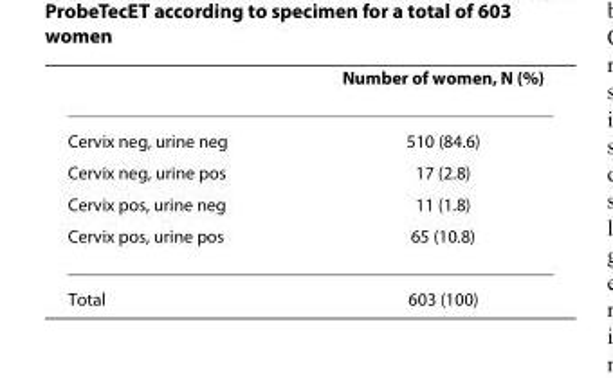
<table><thead><tr><td></td><td>Number of women, N (%)</td></tr></thead><tbody><tr><td>Cervix neg, urine neg</td><td>510 (84.6)</td></tr><tr><td>Cervix neg, urine pos</td><td>17 (2.8)</td></tr><tr><td>Cervix pos, urine neg</td><td>11 (1.8)</td></tr><tr><td>Cervix pos, urine pos</td><td>65 (10.8)</td></tr><tr><td>Total</td><td>603 (100)</td></tr></tbody></table>